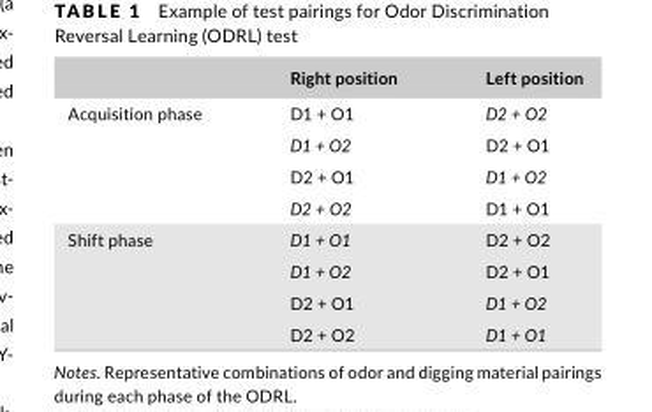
<table><thead><tr><td></td><td>Right position</td><td>Left position</td></tr></thead><tbody><tr><td rowspan="4">Acquisition phase</td><td>D1 + O1</td><td>D2 + O2</td></tr><tr><td>D1 + O2</td><td>D2 + O1</td></tr><tr><td>D2 + O1</td><td>D1 + O2</td></tr><tr><td>D2 + O2</td><td>D1 + O1</td></tr><tr><td rowspan="4">Shift phase</td><td>D1 + O1</td><td>D2 + O2</td></tr><tr><td>D1 + O2</td><td>D2 + O1</td></tr><tr><td>D2 + O1</td><td>D1 + O2</td></tr><tr><td>D2 + O2</td><td>D1 + O1</td></tr></tbody></table>